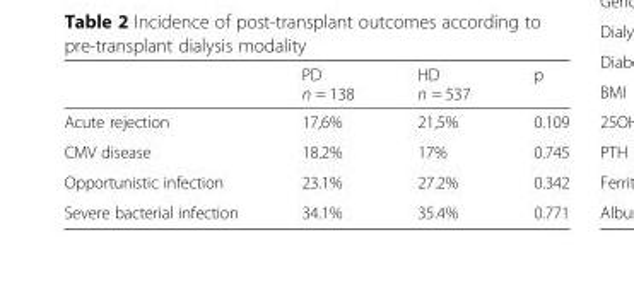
<table><thead><tr><td></td><td>PD n = 138</td><td>HD n = 537</td><td>p</td></tr></thead><tbody><tr><td>Acute rejection</td><td>17,6%</td><td>21,5%</td><td>0.109</td></tr><tr><td>CMV disease</td><td>18.2%</td><td>17%</td><td>0.745</td></tr><tr><td>Opportunistic infection</td><td>23.1%</td><td>27.2%</td><td>0.342</td></tr><tr><td>Severe bacterial infection</td><td>34.1%</td><td>35.4%</td><td>0.771</td></tr></tbody></table>